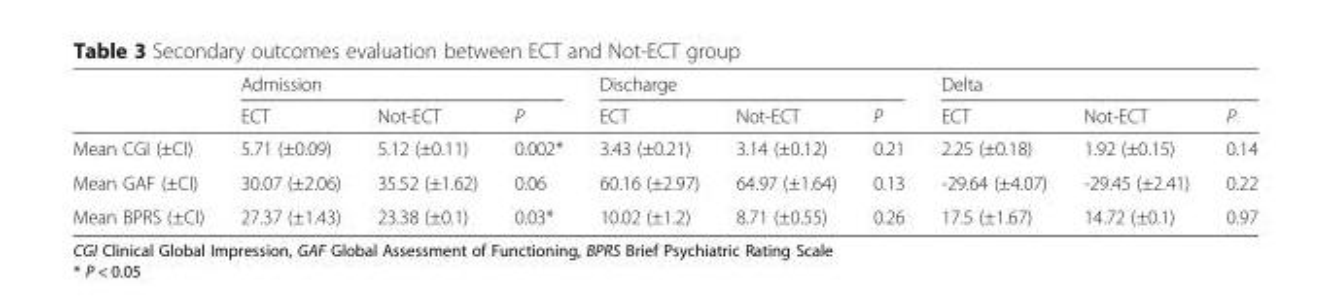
<table><thead><tr><td rowspan="2"></td><td colspan="3">Admission</td><td colspan="3">Discharge</td><td colspan="3">Delta</td></tr><tr><td>ECT</td><td>Not-ECT</td><td>P</td><td>ECT</td><td>Not-ECT</td><td>P</td><td>ECT</td><td>Not-ECT</td><td>P</td></tr></thead><tbody><tr><td>Mean CGI (±CI)</td><td>5.71 (±0.09)</td><td>5.12 (±0.11)</td><td>0.002*</td><td>3.43 (±0.21)</td><td>3.14 (±0.12)</td><td>0.21</td><td>2.25 (±0.18)</td><td>1.92 (±0.15)</td><td>0.14</td></tr><tr><td>Mean GAF (±CI)</td><td>30.07 (±2.06)</td><td>35.52 (±1.62)</td><td>0.06</td><td>60.16 (±2.97)</td><td>64.97 (±1.64)</td><td>0.13</td><td>-29.64 (±4.07)</td><td>-29.45 (±2.41)</td><td>0.22</td></tr><tr><td>Mean BPRS (±CI)</td><td>27.37 (±1.43)</td><td>23.38 (±0.1)</td><td>0.03*</td><td>10.02 (±1.2)</td><td>8.71 (±0.55)</td><td>0.26</td><td>17.5 (±1.67)</td><td>14.72 (±0.1)</td><td>0.97</td></tr></tbody></table>